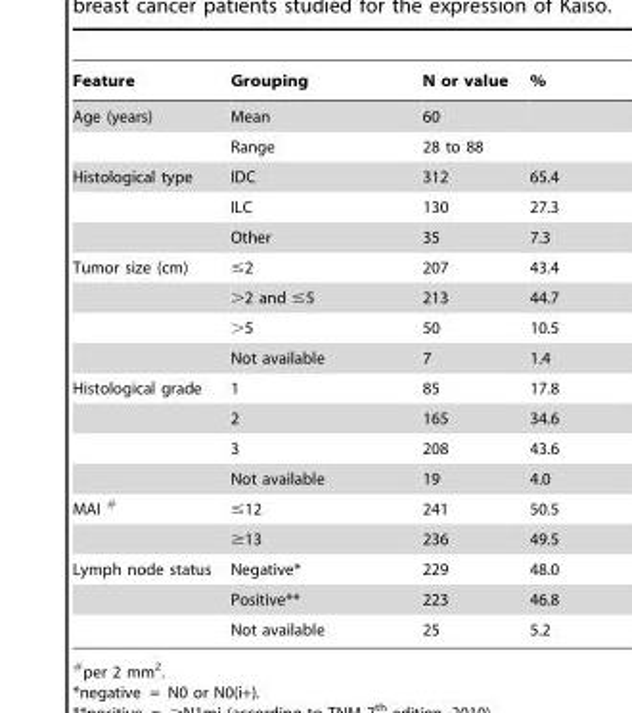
<table><thead><tr><td>Feature</td><td>Grouping</td><td>N or value</td><td>%</td></tr></thead><tbody><tr><td rowspan="2">Age (years)</td><td>Mean</td><td>60</td><td></td></tr><tr><td>Range</td><td>28 to 88</td><td></td></tr><tr><td rowspan="3">Histological type</td><td>IDC</td><td>312</td><td>65.4</td></tr><tr><td>ILC</td><td>130</td><td>27.3</td></tr><tr><td>Other</td><td>35</td><td>7.3</td></tr><tr><td rowspan="4">Tumor size (cm)</td><td>≤2</td><td>207</td><td>43.4</td></tr><tr><td>&gt;2 and ≤5</td><td>213</td><td>44.7</td></tr><tr><td>&gt;5</td><td>50</td><td>10.5</td></tr><tr><td>Not available</td><td>7</td><td>1.4</td></tr><tr><td rowspan="4">Histological grade</td><td>1</td><td>85</td><td>17.8</td></tr><tr><td>2</td><td>165</td><td>34.6</td></tr><tr><td>3</td><td>208</td><td>43.6</td></tr><tr><td>Not available</td><td>19</td><td>4.0</td></tr><tr><td rowspan="2">MAI #</td><td>≤12</td><td>241</td><td>50.5</td></tr><tr><td>≥13</td><td>236</td><td>49.5</td></tr><tr><td rowspan="3">Lymph node status</td><td>Negative*</td><td>229</td><td>48.0</td></tr><tr><td>Positive**</td><td>223</td><td>46.8</td></tr><tr><td>Not available</td><td>25</td><td>5.2</td></tr></tbody></table>